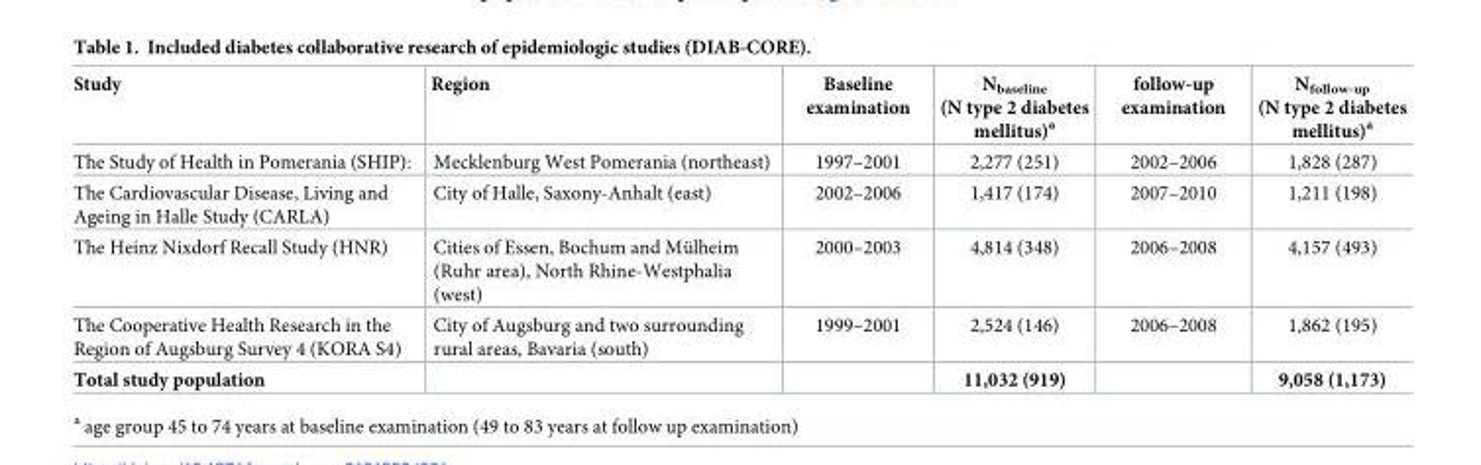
<table><thead><tr><td>Study</td><td>Region</td><td>Baseline examination</td><td>N<sub>baseline</sub> (N type 2 diabetes mellitus)<sup>a</sup></td><td>follow-up examination</td><td>N<sub>follow-up</sub> (N type 2 diabetes mellitus)<sup>a</sup></td></tr></thead><tbody><tr><td>The Study of Health in Pomerania (SHIP):</td><td>Mecklenburg West Pomerania (northeast)</td><td>1997–2001</td><td>2,277 (251)</td><td>2002–2006</td><td>1,828 (287)</td></tr><tr><td>The Cardiovascular Disease, Living and Ageing in Halle Study (CARLA)</td><td>City of Halle, Saxony-Anhalt (east)</td><td>2002–2006</td><td>1,417 (174)</td><td>2007–2010</td><td>1,211 (198)</td></tr><tr><td>The Heinz Nixdorf Recall Study (HNR)</td><td>Cities of Essen, Bochum and Mu¨lheim (Ruhr area), North Rhine-Westphalia (west)</td><td>2000–2003</td><td>4,814 (348)</td><td>2006–2008</td><td>4,157 (493)</td></tr><tr><td>The Cooperative Health Research in the Region of Augsburg Survey 4 (KORA S4)</td><td>City of Augsburg and two surrounding rural areas, Bavaria (south)</td><td>1999–2001</td><td>2,524 (146)</td><td>2006–2008</td><td>1,862 (195)</td></tr><tr><td>Total study population</td><td></td><td></td><td>11,032 (919)</td><td></td><td>9,058 (1,173)</td></tr></tbody></table>